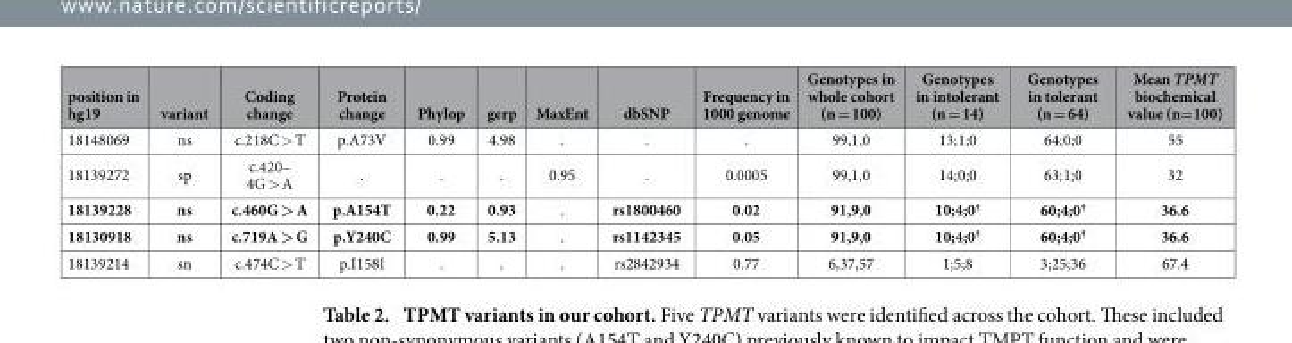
<table><thead><tr><td>position in hg19</td><td>variant</td><td>Coding change</td><td>Protein change</td><td>Phylop</td><td>gerp</td><td>MaxEnt</td><td>dbSNP</td><td>Frequency in 1000 genome</td><td>Genotypes in whole cohort (n = 100)</td><td>Genotypes in intolerant (n = 14)</td><td>Genotypes in tolerant (n = 64)</td><td>Mean TPMT biochemical value (n=100)</td></tr></thead><tbody><tr><td>18148069</td><td>ns</td><td>c.218C &gt; T</td><td>p.A73V</td><td>0.99</td><td>4.98</td><td>.</td><td>.</td><td>.</td><td>99,1,0</td><td>13;1;0</td><td>64;0;0</td><td>55</td></tr><tr><td>18139272</td><td>sp</td><td>c.420– 4G &gt; A</td><td>.</td><td>.</td><td>.</td><td>0.95</td><td>.</td><td>0.0005</td><td>99,1,0</td><td>14;0;0</td><td>63;1;0</td><td>32</td></tr><tr><td>18139228</td><td>ns</td><td>c.460G &gt; A</td><td>p.A154T</td><td>0.22</td><td>0.93</td><td>.</td><td>rs1800460</td><td>0.02</td><td>91,9,0</td><td>10;4;0†</td><td>60;4;0†</td><td>36.6</td></tr><tr><td>18130918</td><td>ns</td><td>c.719A &gt; G</td><td>p.Y240C</td><td>0.99</td><td>5.13</td><td>.</td><td>rs1142345</td><td>0.05</td><td>91,9,0</td><td>10;4;0†</td><td>60;4;0†</td><td>36.6</td></tr><tr><td>18139214</td><td>sn</td><td>c.474C &gt; T</td><td>p.I158I</td><td>.</td><td>.</td><td>.</td><td>rs2842934</td><td>0.77</td><td>6,37,57</td><td>1;5;8</td><td>3;25;36</td><td>67.4</td></tr></tbody></table>